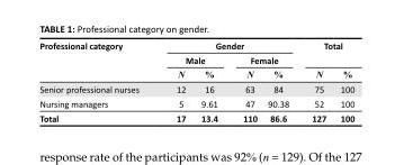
<table><thead><tr><td rowspan="3">Professional category</td><td colspan="4">Gender</td><td colspan="2">Total</td></tr><tr><td colspan="2">Male</td><td colspan="2">Female</td><td rowspan="2">N</td><td rowspan="2">%</td></tr><tr><td>N</td><td>%</td><td>N</td><td>%</td></tr></thead><tbody><tr><td>Senior professional nurses</td><td>12</td><td>16</td><td>63</td><td>84</td><td>75</td><td>100</td></tr><tr><td>Nursing managers</td><td>5</td><td>9.61</td><td>47</td><td>90.38</td><td>52</td><td>100</td></tr><tr><td>Total</td><td>17</td><td>13.4</td><td>110</td><td>86.6</td><td>127</td><td>100</td></tr></tbody></table>